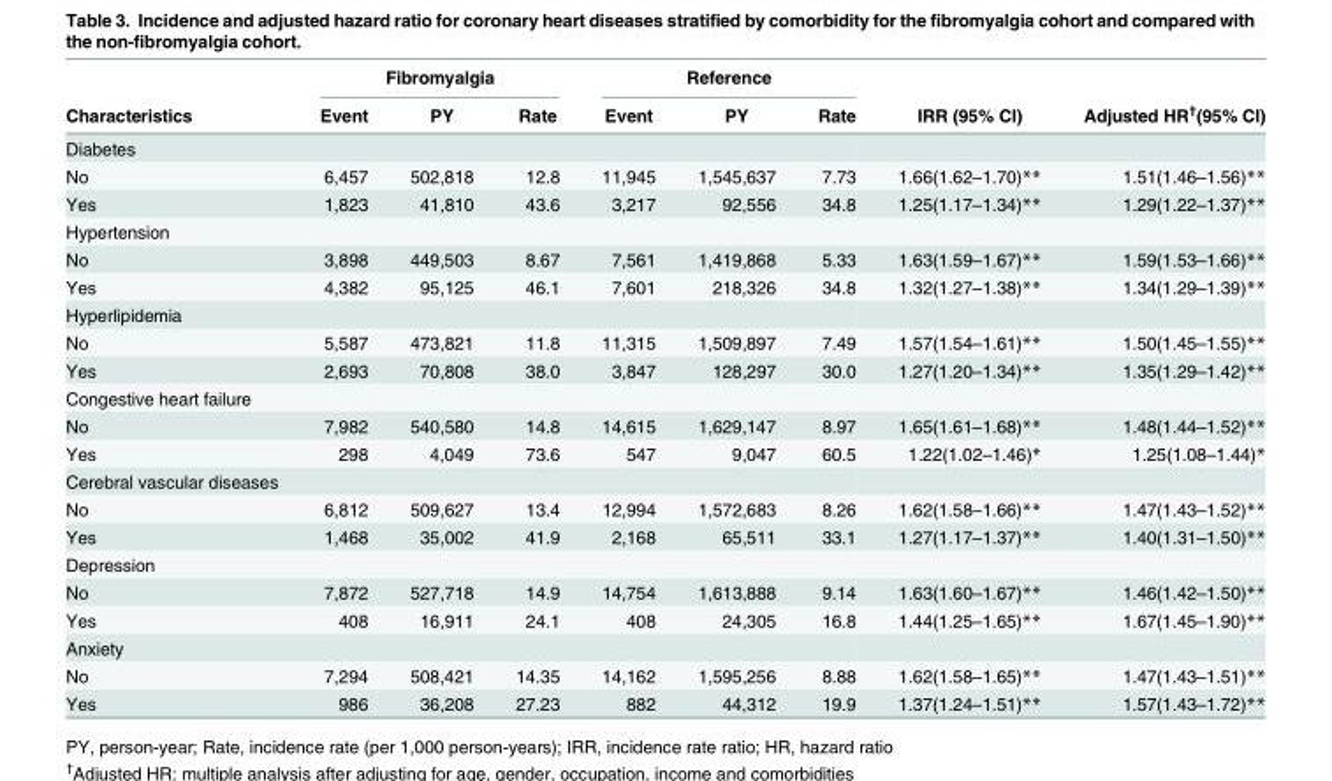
<table><thead><tr><td rowspan="2">Characteristics</td><td colspan="3">Fibromyalgia</td><td colspan="3">Reference</td><td rowspan="2">IRR (95% CI)</td><td rowspan="2">Adjusted HR<sup>†</sup>(95% CI)</td></tr><tr><td>Event</td><td>PY</td><td>Rate</td><td>Event</td><td>PY</td><td>Rate</td></tr></thead><tbody><tr><td colspan="9">Diabetes</td></tr><tr><td>No</td><td>6,457</td><td>502,818</td><td>12.8</td><td>11,945</td><td>1,545,637</td><td>7.73</td><td>1.66(1.62–1.70)**</td><td>1.51(1.46–1.56)**</td></tr><tr><td>Yes</td><td>1,823</td><td>41,810</td><td>43.6</td><td>3,217</td><td>92,556</td><td>34.8</td><td>1.25(1.17–1.34)**</td><td>1.29(1.22–1.37)**</td></tr><tr><td colspan="9">Hypertension</td></tr><tr><td>No</td><td>3,898</td><td>449,503</td><td>8.67</td><td>7,561</td><td>1,419,868</td><td>5.33</td><td>1.63(1.59–1.67)**</td><td>1.59(1.53–1.66)**</td></tr><tr><td>Yes</td><td>4,382</td><td>95,125</td><td>46.1</td><td>7,601</td><td>218,326</td><td>34.8</td><td>1.32(1.27–1.38)**</td><td>1.34(1.29–1.39)**</td></tr><tr><td colspan="9">Hyperlipidemia</td></tr><tr><td>No</td><td>5,587</td><td>473,821</td><td>11.8</td><td>11,315</td><td>1,509,897</td><td>7.49</td><td>1.57(1.54–1.61)**</td><td>1.50(1.45–1.55)**</td></tr><tr><td>Yes</td><td>2,693</td><td>70,808</td><td>38.0</td><td>3,847</td><td>128,297</td><td>30.0</td><td>1.27(1.20–1.34)**</td><td>1.35(1.29–1.42)**</td></tr><tr><td colspan="9">Congestive heart failure</td></tr><tr><td>No</td><td>7,982</td><td>540,580</td><td>14.8</td><td>14,615</td><td>1,629,147</td><td>8.97</td><td>1.65(1.61–1.68)**</td><td>1.48(1.44–1.52)**</td></tr><tr><td>Yes</td><td>298</td><td>4,049</td><td>73.6</td><td>547</td><td>9,047</td><td>60.5</td><td>1.22(1.02–1.46)*</td><td>1.25(1.08–1.44)*</td></tr><tr><td colspan="9">Cerebral vascular diseases</td></tr><tr><td>No</td><td>6,812</td><td>509,627</td><td>13.4</td><td>12,994</td><td>1,572,683</td><td>8.26</td><td>1.62(1.58–1.66)**</td><td>1.47(1.43–1.52)**</td></tr><tr><td>Yes</td><td>1,468</td><td>35,002</td><td>41.9</td><td>2,168</td><td>65,511</td><td>33.1</td><td>1.27(1.17–1.37)**</td><td>1.40(1.31–1.50)**</td></tr><tr><td colspan="9">Depression</td></tr><tr><td>No</td><td>7,872</td><td>527,718</td><td>14.9</td><td>14,754</td><td>1,613,888</td><td>9.14</td><td>1.63(1.60–1.67)**</td><td>1.46(1.42–1.50)**</td></tr><tr><td>Yes</td><td>408</td><td>16,911</td><td>24.1</td><td>408</td><td>24,305</td><td>16.8</td><td>1.44(1.25–1.65)**</td><td>1.67(1.45–1.90)**</td></tr><tr><td colspan="9">Anxiety</td></tr><tr><td>No</td><td>7,294</td><td>508,421</td><td>14.35</td><td>14,162</td><td>1,595,256</td><td>8.88</td><td>1.62(1.58–1.65)**</td><td>1.47(1.43–1.51)**</td></tr><tr><td>Yes</td><td>986</td><td>36,208</td><td>27.23</td><td>882</td><td>44,312</td><td>19.9</td><td>1.37(1.24–1.51)**</td><td>1.57(1.43–1.72)**</td></tr></tbody></table>